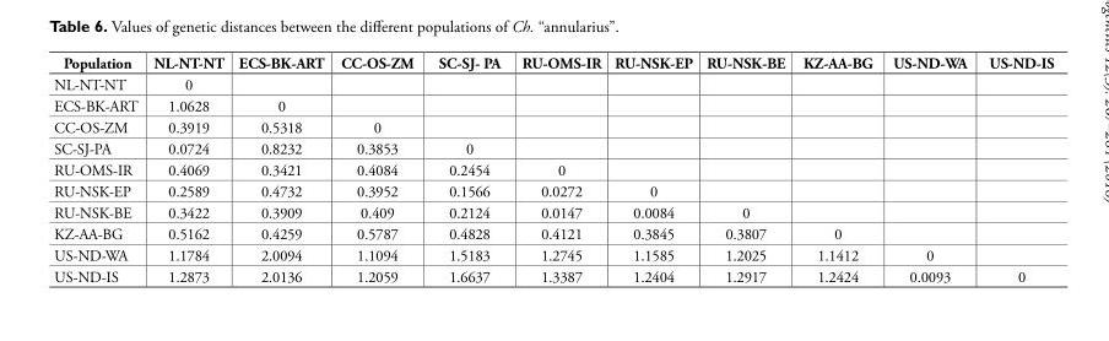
<table><thead><tr><td>Population</td><td>NL-NT-NT</td><td>ECS-BK-ART</td><td>CC-OS-ZM</td><td>SC-SJ- PA</td><td>RU-OMS-IR</td><td>RU-NSK-EP</td><td>RU-NSK-BE</td><td>KZ-AA-BG</td><td>US-ND-WA</td><td>US-ND-IS</td></tr></thead><tbody><tr><td>NL-NT-NT</td><td>0</td><td></td><td></td><td></td><td></td><td></td><td></td><td></td><td></td><td></td></tr><tr><td>ECS-BK-ART</td><td>1.0628</td><td>0</td><td></td><td></td><td></td><td></td><td></td><td></td><td></td><td></td></tr><tr><td>CC-OS-ZM</td><td>0.3919</td><td>0.5318</td><td>0</td><td></td><td></td><td></td><td></td><td></td><td></td><td></td></tr><tr><td>SC-SJ-PA</td><td>0.0724</td><td>0.8232</td><td>0.3853</td><td>0</td><td></td><td></td><td></td><td></td><td></td><td></td></tr><tr><td>RU-OMS-IR</td><td>0.4069</td><td>0.3421</td><td>0.4084</td><td>0.2454</td><td>0</td><td></td><td></td><td></td><td></td><td></td></tr><tr><td>RU-NSK-EP</td><td>0.2589</td><td>0.4732</td><td>0.3952</td><td>0.1566</td><td>0.0272</td><td>0</td><td></td><td></td><td></td><td></td></tr><tr><td>RU-NSK-BE</td><td>0.3422</td><td>0.3909</td><td>0.409</td><td>0.2124</td><td>0.0147</td><td>0.0084</td><td>0</td><td></td><td></td><td></td></tr><tr><td>KZ-AA-BG</td><td>0.5162</td><td>0.4259</td><td>0.5787</td><td>0.4828</td><td>0.4121</td><td>0.3845</td><td>0.3807</td><td>0</td><td></td><td></td></tr><tr><td>US-ND-WA</td><td>1.1784</td><td>2.0094</td><td>1.1094</td><td>1.5183</td><td>1.2745</td><td>1.1585</td><td>1.2025</td><td>1.1412</td><td>0</td><td></td></tr><tr><td>US-ND-IS</td><td>1.2873</td><td>2.0136</td><td>1.2059</td><td>1.6637</td><td>1.3387</td><td>1.2404</td><td>1.2917</td><td>1.2424</td><td>0.0093</td><td>0</td></tr></tbody></table>